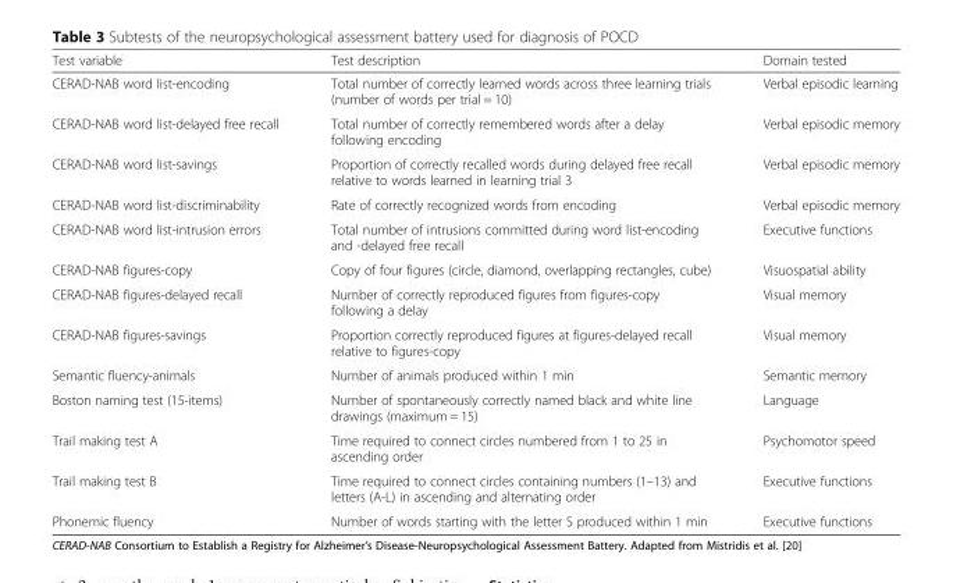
<table><thead><tr><td>Test variable</td><td>Test description</td><td>Domain tested</td></tr></thead><tbody><tr><td>CERAD-NAB word list-encoding</td><td>Total number of correctly learned words across three learning trials (number of words per trial = 10)</td><td>Verbal episodic learning</td></tr><tr><td>CERAD-NAB word list-delayed free recall</td><td>Total number of correctly remembered words after a delay following encoding</td><td>Verbal episodic memory</td></tr><tr><td>CERAD-NAB word list-savings</td><td>Proportion of correctly recalled words during delayed free recall relative to words learned in learning trial 3</td><td>Verbal episodic memory</td></tr><tr><td>CERAD-NAB word list-discriminability</td><td>Rate of correctly recognized words from encoding</td><td>Verbal episodic memory</td></tr><tr><td>CERAD-NAB word list-intrusion errors</td><td>Total number of intrusions committed during word list-encoding and -delayed free recall</td><td>Executive functions</td></tr><tr><td>CERAD-NAB figures-copy</td><td>Copy of four figures (circle, diamond, overlapping rectangles, cube)</td><td>Visuospatial ability</td></tr><tr><td>CERAD-NAB figures-delayed recall</td><td>Number of correctly reproduced figures from figures-copy following a delay</td><td>Visual memory</td></tr><tr><td>CERAD-NAB figures-savings</td><td>Proportion correctly reproduced figures at figures-delayed recall relative to figures-copy</td><td>Visual memory</td></tr><tr><td>Semantic fluency-animals</td><td>Number of animals produced within 1 min</td><td>Semantic memory</td></tr><tr><td>Boston naming test (15-items)</td><td>Number of spontaneously correctly named black and white line drawings (maximum = 15)</td><td>Language</td></tr><tr><td>Trail making test A</td><td>Time required to connect circles numbered from 1 to 25 in ascending order</td><td>Psychomotor speed</td></tr><tr><td>Trail making test B</td><td>Time required to connect circles containing numbers (1–13) and letters (A-L) in ascending and alternating order</td><td>Executive functions</td></tr><tr><td>Phonemic fluency</td><td>Number of words starting with the letter S produced within 1 min</td><td>Executive functions</td></tr></tbody></table>